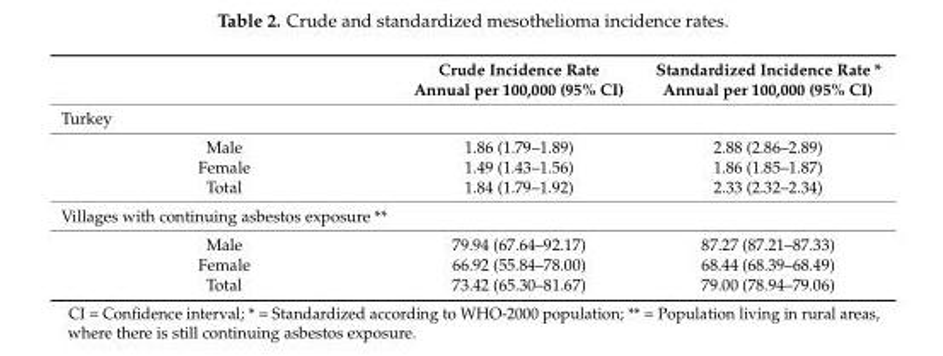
<table><thead><tr><td></td><td>Crude Incidence Rate Annual per 100,000 (95% CI)</td><td>Standardized Incidence Rate * Annual per 100,000 (95% CI)</td></tr></thead><tbody><tr><td colspan="3">Turkey</td></tr><tr><td>Male</td><td>1.86 (1.79–1.89)</td><td>2.88 (2.86–2.89)</td></tr><tr><td>Female</td><td>1.49 (1.43–1.56)</td><td>1.86 (1.85–1.87)</td></tr><tr><td>Total</td><td>1.84 (1.79–1.92)</td><td>2.33 (2.32–2.34)</td></tr><tr><td colspan="3">Villages with continuing asbestos exposure **</td></tr><tr><td>Male</td><td>79.94 (67.64–92.17)</td><td>87.27 (87.21–87.33)</td></tr><tr><td>Female</td><td>66.92 (55.84–78.00)</td><td>68.44 (68.39–68.49)</td></tr><tr><td>Total</td><td>73.42 (65.30–81.67)</td><td>79.00 (78.94–79.06)</td></tr></tbody></table>